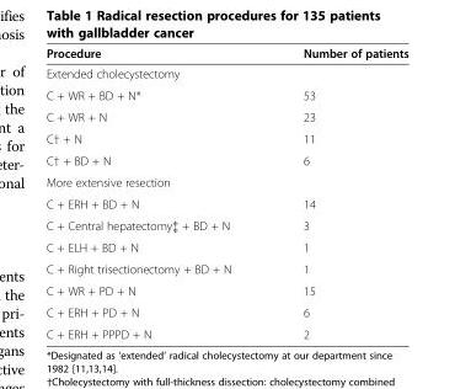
<table><thead><tr><td>Procedure</td><td>Number of patients</td></tr></thead><tbody><tr><td colspan="2">Extended cholecystectomy</td></tr><tr><td>C + WR + BD + N*</td><td>53</td></tr><tr><td>C + WR + N</td><td>23</td></tr><tr><td>C† + N</td><td>11</td></tr><tr><td>C† + BD + N</td><td>6</td></tr><tr><td colspan="2">More extensive resection</td></tr><tr><td>C + ERH + BD + N</td><td>14</td></tr><tr><td>C + Central hepatectomy‡ + BD + N</td><td>3</td></tr><tr><td>C + ELH + BD + N</td><td>1</td></tr><tr><td>C + Right trisectionectomy + BD + N</td><td>1</td></tr><tr><td>C + WR + PD + N</td><td>15</td></tr><tr><td>C + ERH + PD + N</td><td>6</td></tr><tr><td>C + ERH + PPPD + N</td><td>2</td></tr></tbody></table>